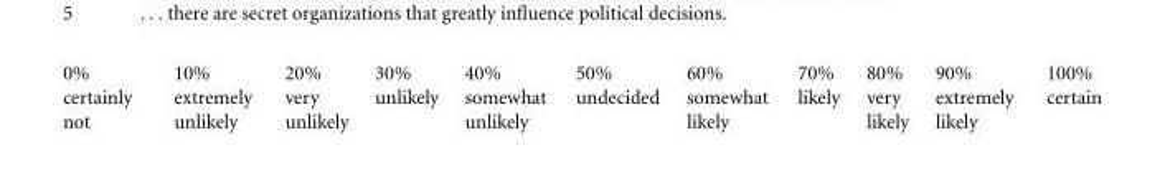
<table><tbody><tr><td>0%</td><td>10%</td><td>20%</td><td>30%</td><td>40%</td><td>50%</td><td>60%</td><td>70%</td><td>80%</td><td>90%</td><td>100%</td></tr><tr><td>certainly not</td><td>extremely unlikely</td><td>very unlikely</td><td>unlikely</td><td>somewhat unlikely</td><td>undecided</td><td>somewhat likely</td><td>likely</td><td>very likely</td><td>extremely likely</td><td>certain</td></tr></tbody></table>